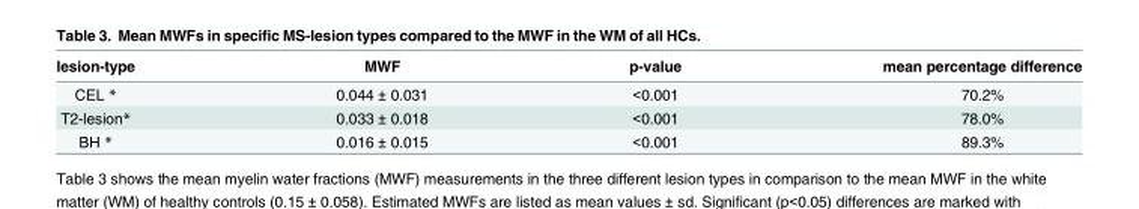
<table><thead><tr><td>lesion-type</td><td>MWF</td><td>p-value</td><td>mean percentage difference</td></tr></thead><tbody><tr><td>CEL *</td><td>0.044 ± 0.031</td><td>&lt;0.001</td><td>70.2%</td></tr><tr><td>T2-lesion*</td><td>0.033 ± 0.018</td><td>&lt;0.001</td><td>78.0%</td></tr><tr><td>BH *</td><td>0.016 ± 0.015</td><td>&lt;0.001</td><td>89.3%</td></tr></tbody></table>